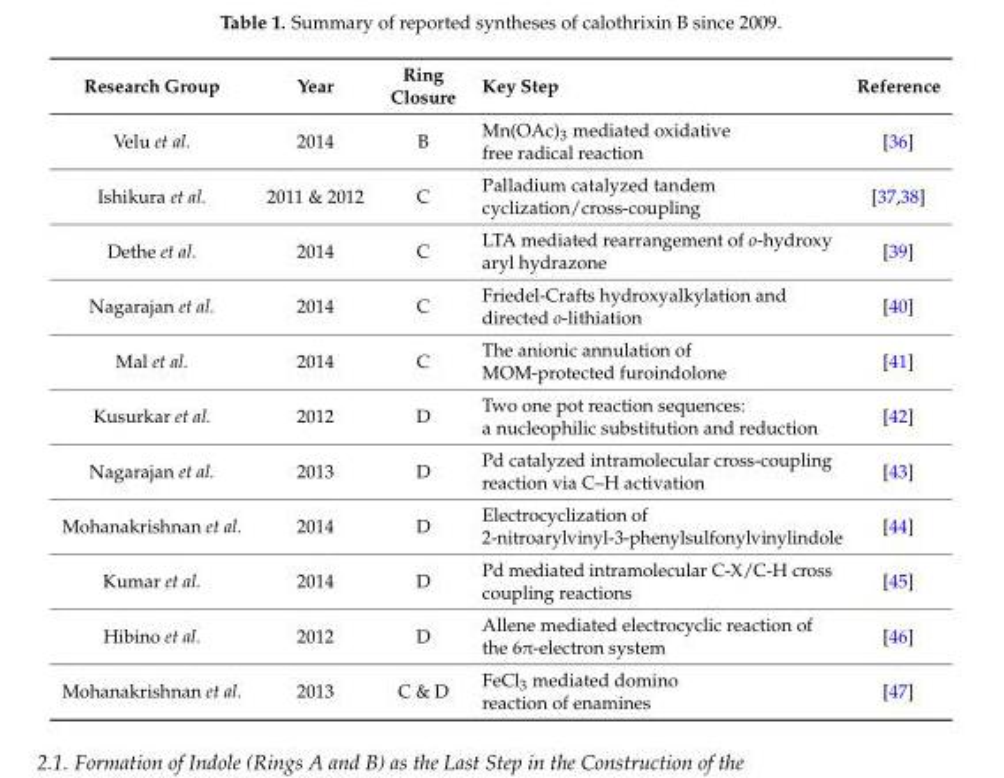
<table><thead><tr><td>Research Group</td><td>Year</td><td>Ring Closure</td><td>Key Step</td><td>Reference</td></tr></thead><tbody><tr><td>Velu et al.</td><td>2014</td><td>B</td><td>Mn(OAc)<sub>3</sub> mediated oxidative free radical reaction</td><td>[36]</td></tr><tr><td>Ishikura et al.</td><td>2011 &amp; 2012</td><td>C</td><td>Palladium catalyzed tandem cyclization/cross-coupling</td><td>[37,38]</td></tr><tr><td>Dethe et al.</td><td>2014</td><td>C</td><td>LTA mediated rearrangement of o-hydroxy aryl hydrazone</td><td>[39]</td></tr><tr><td>Nagarajan et al.</td><td>2014</td><td>C</td><td>Friedel-Crafts hydroxyalkylation and directed o-lithiation</td><td>[40]</td></tr><tr><td>Mal et al.</td><td>2014</td><td>C</td><td>The anionic annulation of MOM-protected furoindolone</td><td>[41]</td></tr><tr><td>Kusurkar et al.</td><td>2012</td><td>D</td><td>Two one pot reaction sequences: a nucleophilic substitution and reduction</td><td>[42]</td></tr><tr><td>Nagarajan et al.</td><td>2013</td><td>D</td><td>Pd catalyzed intramolecular cross-coupling reaction via C–H activation</td><td>[43]</td></tr><tr><td>Mohanakrishnan et al.</td><td>2014</td><td>D</td><td>Electrocyclization of 2-nitroarylvinyl-3-phenylsulfonylvinylindole</td><td>[44]</td></tr><tr><td>Kumar et al.</td><td>2014</td><td>D</td><td>Pd mediated intramolecular C-X/C-H cross coupling reactions</td><td>[45]</td></tr><tr><td>Hibino et al.</td><td>2012</td><td>D</td><td>Allene mediated electrocyclic reaction of the 6π-electron system</td><td>[46]</td></tr><tr><td>Mohanakrishnan et al.</td><td>2013</td><td>C &amp; D</td><td>FeCl<sub>3</sub> mediated domino reaction of enamines</td><td>[47]</td></tr></tbody></table>